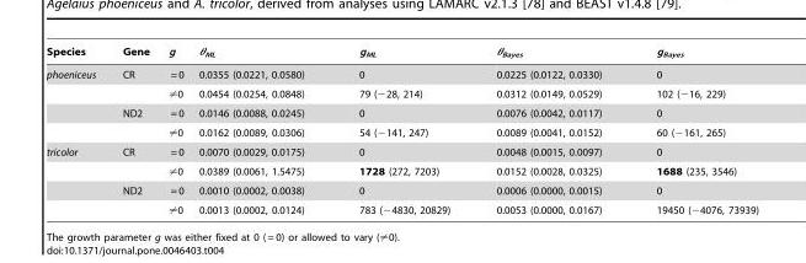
<table><thead><tr><td>Species</td><td>Gene</td><td>g</td><td>θ<sub>ML</sub></td><td>g<sub>ML</sub></td><td>θ<sub>Bayes</sub></td><td>g<sub>Bayes</sub></td></tr></thead><tbody><tr><td rowspan="4">phoeniceus</td><td>CR</td><td>= 0</td><td>0.0355 (0.0221, 0.0580)</td><td>0</td><td>0.0225 (0.0122, 0.0330)</td><td>0</td></tr><tr><td></td><td>≠0</td><td>0.0454 (0.0254, 0.0848)</td><td>79 (−28, 214)</td><td>0.0312 (0.0149, 0.0529)</td><td>102 (−16, 229)</td></tr><tr><td>ND2</td><td>= 0</td><td>0.0146 (0.0088, 0.0245)</td><td>0</td><td>0.0076 (0.0042, 0.0117)</td><td>0</td></tr><tr><td></td><td>≠0</td><td>0.0162 (0.0089, 0.0306)</td><td>54 (−141, 247)</td><td>0.0089 (0.0041, 0.0152)</td><td>60 (−161, 265)</td></tr><tr><td rowspan="4">tricolor</td><td>CR</td><td>= 0</td><td>0.0070 (0.0029, 0.0175)</td><td>0</td><td>0.0048 (0.0015, 0.0097)</td><td>0</td></tr><tr><td></td><td>≠0</td><td>0.0389 (0.0061, 1.5475)</td><td>1728 (272, 7203)</td><td>0.0152 (0.0028, 0.0325)</td><td>1688 (235, 3546)</td></tr><tr><td>ND2</td><td>= 0</td><td>0.0010 (0.0002, 0.0038)</td><td>0</td><td>0.0006 (0.0000, 0.0015)</td><td>0</td></tr><tr><td></td><td>≠0</td><td>0.0013 (0.0002, 0.0124)</td><td>783 (−4830, 20829)</td><td>0.0053 (0.0000, 0.0167)</td><td>19450 (−4076, 73939)</td></tr></tbody></table>